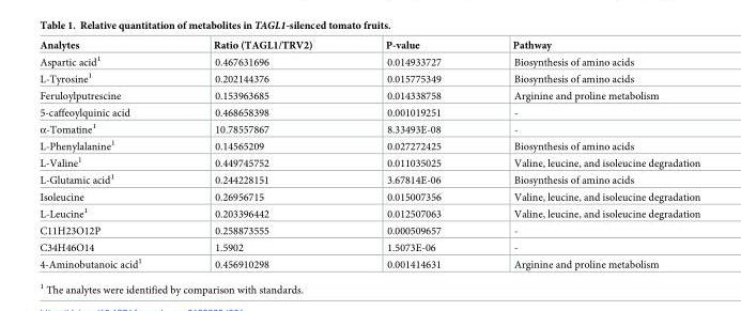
<table><thead><tr><td>Analytes</td><td>Ratio (TAGL1/TRV2)</td><td>P-value</td><td>Pathway</td></tr></thead><tbody><tr><td>Aspartic acid<sup>1</sup></td><td>0.467631696</td><td>0.014933727</td><td>Biosynthesis of amino acids</td></tr><tr><td>L-Tyrosine<sup>1</sup></td><td>0.202144376</td><td>0.015775349</td><td>Biosynthesis of amino acids</td></tr><tr><td>Feruloylputrescine</td><td>0.153963685</td><td>0.014338758</td><td>Arginine and proline metabolism</td></tr><tr><td>5-caffeoylquinic acid</td><td>0.468658398</td><td>0.001019251</td><td>-</td></tr><tr><td>α-Tomatine<sup>1</sup></td><td>10.78557867</td><td>8.33493E-08</td><td>-</td></tr><tr><td>L-Phenylalanine<sup>1</sup></td><td>0.14565209</td><td>0.027272425</td><td>Biosynthesis of amino acids</td></tr><tr><td>L-Valine<sup>1</sup></td><td>0.449745752</td><td>0.011035025</td><td>Valine, leucine, and isoleucine degradation</td></tr><tr><td>L-Glutamic acid<sup>1</sup></td><td>0.244228151</td><td>3.67814E-06</td><td>Biosynthesis of amino acids</td></tr><tr><td>Isoleucine</td><td>0.26956715</td><td>0.015007356</td><td>Valine, leucine, and isoleucine degradation</td></tr><tr><td>L-Leucine<sup>1</sup></td><td>0.203396442</td><td>0.012507063</td><td>Valine, leucine, and isoleucine degradation</td></tr><tr><td>C11H23O12P</td><td>0.258873555</td><td>0.000509657</td><td>-</td></tr><tr><td>C34H46O14</td><td>1.5902</td><td>1.5073E-06</td><td>-</td></tr><tr><td>4-Aminobutanoic acid<sup>1</sup></td><td>0.456910298</td><td>0.001414631</td><td>Arginine and proline metabolism</td></tr></tbody></table>